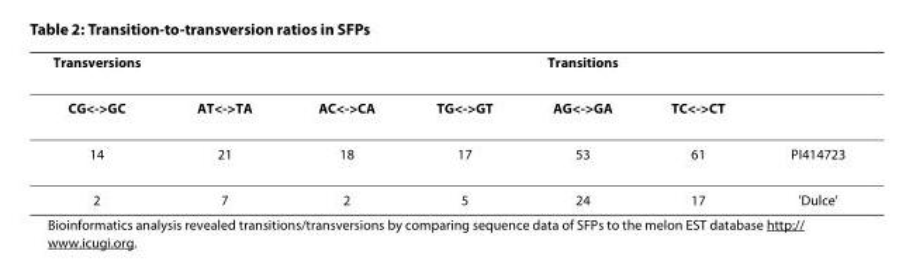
<table><thead><tr><td>Transversions</td><td></td><td></td><td></td><td>Transitions</td><td></td><td></td></tr></thead><tbody><tr><td>CG&lt;-&gt;GC</td><td>AT&lt;-&gt;TA</td><td>AC&lt;-&gt;CA</td><td>TG&lt;-&gt;GT</td><td>AG&lt;-&gt;GA</td><td>TC&lt;-&gt;CT</td><td></td></tr><tr><td>14</td><td>21</td><td>18</td><td>17</td><td>53</td><td>61</td><td>PI414723</td></tr><tr><td>2</td><td>7</td><td>2</td><td>5</td><td>24</td><td>17</td><td>&#x27;Dulce&#x27;</td></tr></tbody></table>